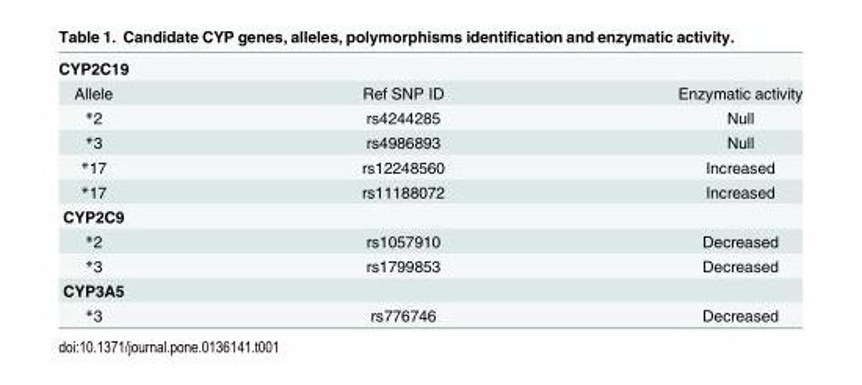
<table><tbody><tr><td colspan="3">CYP2C19</td></tr><tr><td>Allele</td><td>Ref SNP ID</td><td>Enzymatic activity</td></tr><tr><td>*2</td><td>rs4244285</td><td>Null</td></tr><tr><td>*3</td><td>rs4986893</td><td>Null</td></tr><tr><td>*17</td><td>rs12248560</td><td>Increased</td></tr><tr><td>*17</td><td>rs11188072</td><td>Increased</td></tr><tr><td colspan="3">CYP2C9</td></tr><tr><td>*2</td><td>rs1057910</td><td>Decreased</td></tr><tr><td>*3</td><td>rs1799853</td><td>Decreased</td></tr><tr><td colspan="3">CYP3A5</td></tr><tr><td>*3</td><td>rs776746</td><td>Decreased</td></tr></tbody></table>